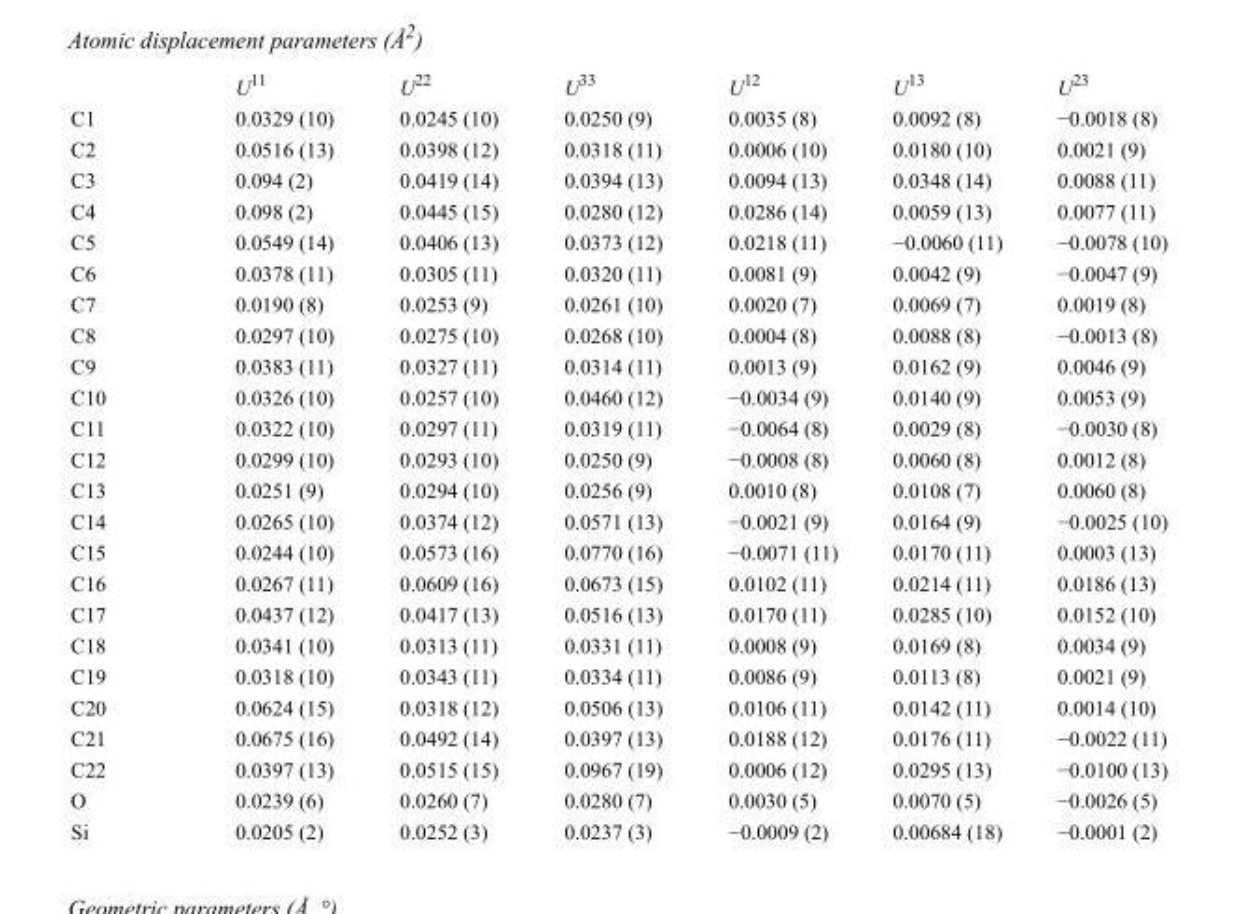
<table><thead><tr><td></td><td>U<sup>11</sup></td><td>U<sup>22</sup></td><td>U<sup>33</sup></td><td>U<sup>12</sup></td><td>U<sup>13</sup></td><td>U<sup>23</sup></td></tr></thead><tbody><tr><td>C1</td><td>0.0329 (10)</td><td>0.0245 (10)</td><td>0.0250 (9)</td><td>0.0035 (8)</td><td>0.0092 (8)</td><td>−0.0018 (8)</td></tr><tr><td>C2</td><td>0.0516 (13)</td><td>0.0398 (12)</td><td>0.0318 (11)</td><td>0.0006 (10)</td><td>0.0180 (10)</td><td>0.0021 (9)</td></tr><tr><td>C3</td><td>0.094 (2)</td><td>0.0419 (14)</td><td>0.0394 (13)</td><td>0.0094 (13)</td><td>0.0348 (14)</td><td>0.0088 (11)</td></tr><tr><td>C4</td><td>0.098 (2)</td><td>0.0445 (15)</td><td>0.0280 (12)</td><td>0.0286 (14)</td><td>0.0059 (13)</td><td>0.0077 (11)</td></tr><tr><td>C5</td><td>0.0549 (14)</td><td>0.0406 (13)</td><td>0.0373 (12)</td><td>0.0218 (11)</td><td>−0.0060 (11)</td><td>−0.0078 (10)</td></tr><tr><td>C6</td><td>0.0378 (11)</td><td>0.0305 (11)</td><td>0.0320 (11)</td><td>0.0081 (9)</td><td>0.0042 (9)</td><td>−0.0047 (9)</td></tr><tr><td>C7</td><td>0.0190 (8)</td><td>0.0253 (9)</td><td>0.0261 (10)</td><td>0.0020 (7)</td><td>0.0069 (7)</td><td>0.0019 (8)</td></tr><tr><td>C8</td><td>0.0297 (10)</td><td>0.0275 (10)</td><td>0.0268 (10)</td><td>0.0004 (8)</td><td>0.0088 (8)</td><td>−0.0013 (8)</td></tr><tr><td>C9</td><td>0.0383 (11)</td><td>0.0327 (11)</td><td>0.0314 (11)</td><td>0.0013 (9)</td><td>0.0162 (9)</td><td>0.0046 (9)</td></tr><tr><td>C10</td><td>0.0326 (10)</td><td>0.0257 (10)</td><td>0.0460 (12)</td><td>−0.0034 (9)</td><td>0.0140 (9)</td><td>0.0053 (9)</td></tr><tr><td>C11</td><td>0.0322 (10)</td><td>0.0297 (11)</td><td>0.0319 (11)</td><td>−0.0064 (8)</td><td>0.0029 (8)</td><td>−0.0030 (8)</td></tr><tr><td>C12</td><td>0.0299 (10)</td><td>0.0293 (10)</td><td>0.0250 (9)</td><td>−0.0008 (8)</td><td>0.0060 (8)</td><td>0.0012 (8)</td></tr><tr><td>C13</td><td>0.0251 (9)</td><td>0.0294 (10)</td><td>0.0256 (9)</td><td>0.0010 (8)</td><td>0.0108 (7)</td><td>0.0060 (8)</td></tr><tr><td>C14</td><td>0.0265 (10)</td><td>0.0374 (12)</td><td>0.0571 (13)</td><td>−0.0021 (9)</td><td>0.0164 (9)</td><td>−0.0025 (10)</td></tr><tr><td>C15</td><td>0.0244 (10)</td><td>0.0573 (16)</td><td>0.0770 (16)</td><td>−0.0071 (11)</td><td>0.0170 (11)</td><td>0.0003 (13)</td></tr><tr><td>C16</td><td>0.0267 (11)</td><td>0.0609 (16)</td><td>0.0673 (15)</td><td>0.0102 (11)</td><td>0.0214 (11)</td><td>0.0186 (13)</td></tr><tr><td>C17</td><td>0.0437 (12)</td><td>0.0417 (13)</td><td>0.0516 (13)</td><td>0.0170 (11)</td><td>0.0285 (10)</td><td>0.0152 (10)</td></tr><tr><td>C18</td><td>0.0341 (10)</td><td>0.0313 (11)</td><td>0.0331 (11)</td><td>0.0008 (9)</td><td>0.0169 (8)</td><td>0.0034 (9)</td></tr><tr><td>C19</td><td>0.0318 (10)</td><td>0.0343 (11)</td><td>0.0334 (11)</td><td>0.0086 (9)</td><td>0.0113 (8)</td><td>0.0021 (9)</td></tr><tr><td>C20</td><td>0.0624 (15)</td><td>0.0318 (12)</td><td>0.0506 (13)</td><td>0.0106 (11)</td><td>0.0142 (11)</td><td>0.0014 (10)</td></tr><tr><td>C21</td><td>0.0675 (16)</td><td>0.0492 (14)</td><td>0.0397 (13)</td><td>0.0188 (12)</td><td>0.0176 (11)</td><td>−0.0022 (11)</td></tr><tr><td>C22</td><td>0.0397 (13)</td><td>0.0515 (15)</td><td>0.0967 (19)</td><td>0.0006 (12)</td><td>0.0295 (13)</td><td>−0.0100 (13)</td></tr><tr><td>O</td><td>0.0239 (6)</td><td>0.0260 (7)</td><td>0.0280 (7)</td><td>0.0030 (5)</td><td>0.0070 (5)</td><td>−0.0026 (5)</td></tr><tr><td>Si</td><td>0.0205 (2)</td><td>0.0252 (3)</td><td>0.0237 (3)</td><td>−0.0009 (2)</td><td>0.00684 (18)</td><td>−0.0001 (2)</td></tr></tbody></table>